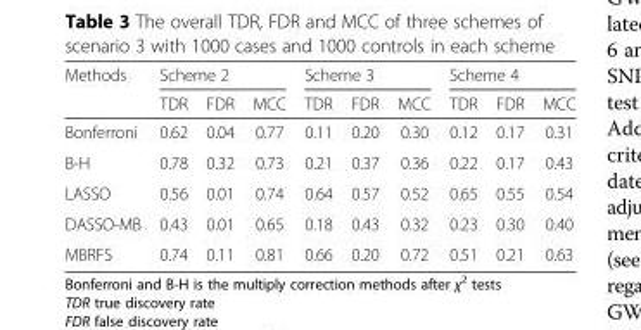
<table><thead><tr><td rowspan="2">Methods</td><td colspan="3">Scheme 2</td><td colspan="3">Scheme 3</td><td colspan="3">Scheme 4</td></tr><tr><td>TDR</td><td>FDR</td><td>MCC</td><td>TDR</td><td>FDR</td><td>MCC</td><td>TDR</td><td>FDR</td><td>MCC</td></tr></thead><tbody><tr><td>Bonferroni</td><td>0.62</td><td>0.04</td><td>0.77</td><td>0.11</td><td>0.20</td><td>0.30</td><td>0.12</td><td>0.17</td><td>0.31</td></tr><tr><td>B-H</td><td>0.78</td><td>0.32</td><td>0.73</td><td>0.21</td><td>0.37</td><td>0.36</td><td>0.22</td><td>0.17</td><td>0.43</td></tr><tr><td>LASSO</td><td>0.56</td><td>0.01</td><td>0.74</td><td>0.64</td><td>0.57</td><td>0.52</td><td>0.65</td><td>0.55</td><td>0.54</td></tr><tr><td>DASSO-MB</td><td>0.43</td><td>0.01</td><td>0.65</td><td>0.18</td><td>0.43</td><td>0.32</td><td>0.23</td><td>0.30</td><td>0.40</td></tr><tr><td>MBRFS</td><td>0.74</td><td>0.11</td><td>0.81</td><td>0.66</td><td>0.20</td><td>0.72</td><td>0.51</td><td>0.21</td><td>0.63</td></tr></tbody></table>